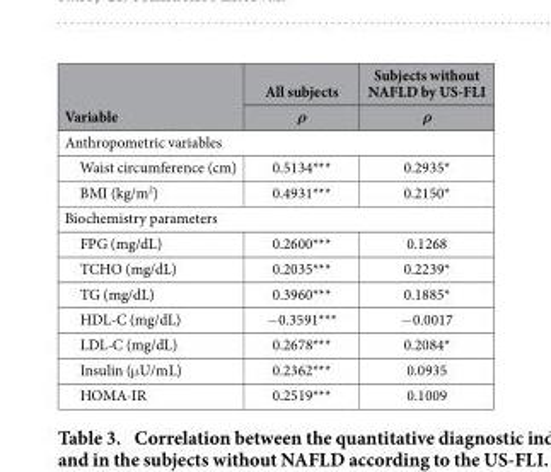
<table><thead><tr><td rowspan="2">Variable</td><td rowspan="2">All subjects ρ</td><td rowspan="2">Subjects without NAFLD by US-FLI ρ</td></tr><tr></tr></thead><tbody><tr><td colspan="3">Anthropometric variables</td></tr><tr><td>Waist circumference (cm)</td><td>0.5134***</td><td>0.2935*</td></tr><tr><td>BMI (kg/m<sup>2</sup>)</td><td>0.4931***</td><td>0.2150*</td></tr><tr><td colspan="3">Biochemistry parameters</td></tr><tr><td>FPG (mg/dL)</td><td>0.2600***</td><td>0.1268</td></tr><tr><td>TCHO (mg/dL)</td><td>0.2035***</td><td>0.2239*</td></tr><tr><td>TG (mg/dL)</td><td>0.3960***</td><td>0.1885*</td></tr><tr><td>HDL-C (mg/dL)</td><td>− 0.3591***</td><td>− 0.0017</td></tr><tr><td>LDL-C (mg/dL)</td><td>0.2678***</td><td>0.2084*</td></tr><tr><td>Insulin (μ U/mL)</td><td>0.2362***</td><td>0.0935</td></tr><tr><td>HOMA-IR</td><td>0.2519***</td><td>0.1009</td></tr></tbody></table>